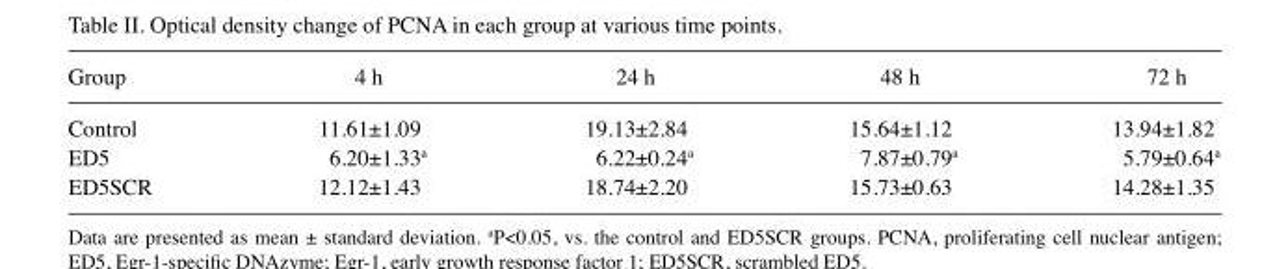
<table><thead><tr><td>Group</td><td>4 h</td><td>24 h</td><td>48 h</td><td>72 h</td></tr></thead><tbody><tr><td>Control</td><td>11.61±1.09</td><td>19.13±2.84</td><td>15.64±1.12</td><td>13.94±1.82</td></tr><tr><td>ED5</td><td>6.20±1.33<sup>a</sup></td><td>6.22±0.24<sup>a</sup></td><td>7.87±0.79<sup>a</sup></td><td>5.79±0.64<sup>a</sup></td></tr><tr><td>ED5SCR</td><td>12.12±1.43</td><td>18.74±2.20</td><td>15.73±0.63</td><td>14.28±1.35</td></tr></tbody></table>